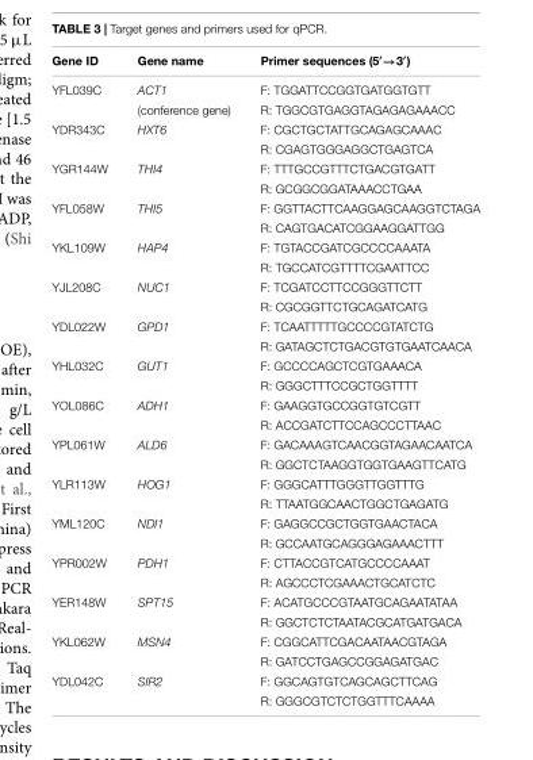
<table><thead><tr><td>Gene ID</td><td>Gene name</td><td>Primer sequences (5′→3′)</td></tr></thead><tbody><tr><td rowspan="2">YFL039C</td><td>ACT1</td><td>F: TGGATTCCGGTGATGGTGTT</td></tr><tr><td>(conference gene)</td><td>R: TGGCGTGAGGTAGAGAGAAACC</td></tr><tr><td rowspan="2">YDR343C</td><td>HXT6</td><td>F: CGCTGCTATTGCAGAGCAAAC</td></tr><tr><td></td><td>R: CGAGTGGGAGGCTGAGTCA</td></tr><tr><td rowspan="2">YGR144W</td><td>THI4</td><td>F: TTTGCCGTTTCTGACGTGATT</td></tr><tr><td></td><td>R: GCGGCGGATAAACCTGAA</td></tr><tr><td rowspan="2">YFL058W</td><td>THI5</td><td>F: GGTTACTTCAAGGAGCAAGGTCTAGA</td></tr><tr><td></td><td>R: CAGTGACATCGGAAGGATTGG</td></tr><tr><td rowspan="2">YKL109W</td><td>HAP4</td><td>F: TGTACCGATCGCCCCAAATA</td></tr><tr><td></td><td>R: TGCCATCGTTTTCGAATTCC</td></tr><tr><td rowspan="2">YJL208C</td><td>NUC1</td><td>F: TCGATCCTTCCGGGTTCTT</td></tr><tr><td></td><td>R: CGCGGTTCTGCAGATCATG</td></tr><tr><td rowspan="2">YDL022W</td><td>GPD1</td><td>F: TCAATTTTTGCCCCGTATCTG</td></tr><tr><td></td><td>R: GATAGCTCTGACGTGTGAATCAACA</td></tr><tr><td rowspan="2">YHL032C</td><td>GUT1</td><td>F: GCCCCAGCTCGTGAAACA</td></tr><tr><td></td><td>R: GGGCTTTCCGCTGGTTTT</td></tr><tr><td rowspan="2">YOL086C</td><td>ADH1</td><td>F: GAAGGTGCCGGTGTCGTT</td></tr><tr><td></td><td>R: ACCGATCTTCCAGCCCTTAAC</td></tr><tr><td rowspan="2">YPL061W</td><td>ALD6</td><td>F: GACAAAGTCAACGGTAGAACAATCA</td></tr><tr><td></td><td>R: GGCTCTAAGGTGGTGAAGTTCATG</td></tr><tr><td rowspan="2">YLR113W</td><td>HOG1</td><td>F: GGGCATTTGGGTTGGTTTG</td></tr><tr><td></td><td>R: TTAATGGCAACTGGCTGAGATG</td></tr><tr><td rowspan="2">YML120C</td><td>NDI1</td><td>F: GAGGCCGCTGGTGAACTACA</td></tr><tr><td></td><td>R: GCCAATGCAGGGAGAAACTTT</td></tr><tr><td rowspan="2">YPR002W</td><td>PDH1</td><td>F: CTTACCGTCATGCCCCAAAT</td></tr><tr><td></td><td>R: AGCCCTCGAAACTGCATCTC</td></tr><tr><td rowspan="2">YER148W</td><td>SPT15</td><td>F: ACATGCCCGTAATGCAGAATATAA</td></tr><tr><td></td><td>R: GGCTCTCTAATACGCATGATGACA</td></tr><tr><td rowspan="2">YKL062W</td><td>MSN4</td><td>F: CGGCATTCGACAATAACGTAGA</td></tr><tr><td></td><td>R: GATCCTGAGCCGGAGATGAC</td></tr><tr><td rowspan="2">YDL042C</td><td>SIR2</td><td>F: GGCAGTGTCAGCAGCTTCAG</td></tr><tr><td></td><td>R: GGGCGTCTCTGGTTTCAAAA</td></tr></tbody></table>